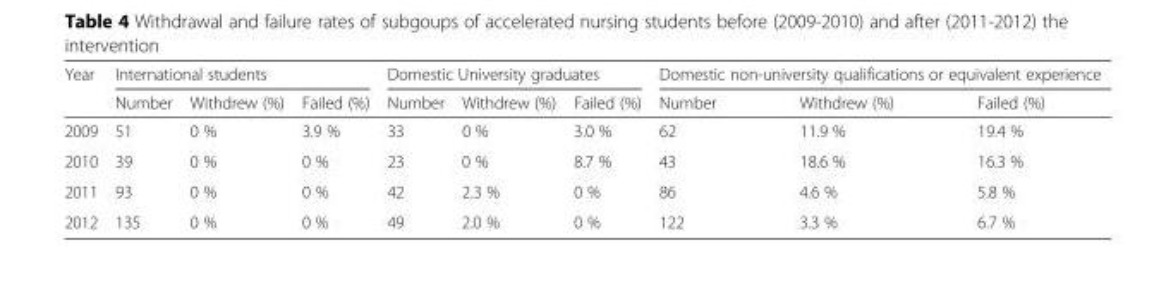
<table><thead><tr><td rowspan="2">Year</td><td colspan="3">International students</td><td colspan="3">Domestic University graduates</td><td colspan="3">Domestic non-university qualifications or equivalent experience</td></tr><tr><td>Number</td><td>Withdrew (%)</td><td>Failed (%)</td><td>Number</td><td>Withdrew (%)</td><td>Failed (%)</td><td>Number</td><td>Withdrew (%)</td><td>Failed (%)</td></tr></thead><tbody><tr><td>2009</td><td>51</td><td>0 %</td><td>3.9 %</td><td>33</td><td>0 %</td><td>3.0 %</td><td>62</td><td>11.9 %</td><td>19.4 %</td></tr><tr><td>2010</td><td>39</td><td>0 %</td><td>0 %</td><td>23</td><td>0 %</td><td>8.7 %</td><td>43</td><td>18.6 %</td><td>16.3 %</td></tr><tr><td>2011</td><td>93</td><td>0 %</td><td>0 %</td><td>42</td><td>2.3 %</td><td>0 %</td><td>86</td><td>4.6 %</td><td>5.8 %</td></tr><tr><td>2012</td><td>135</td><td>0 %</td><td>0 %</td><td>49</td><td>2.0 %</td><td>0 %</td><td>122</td><td>3.3 %</td><td>6.7 %</td></tr></tbody></table>